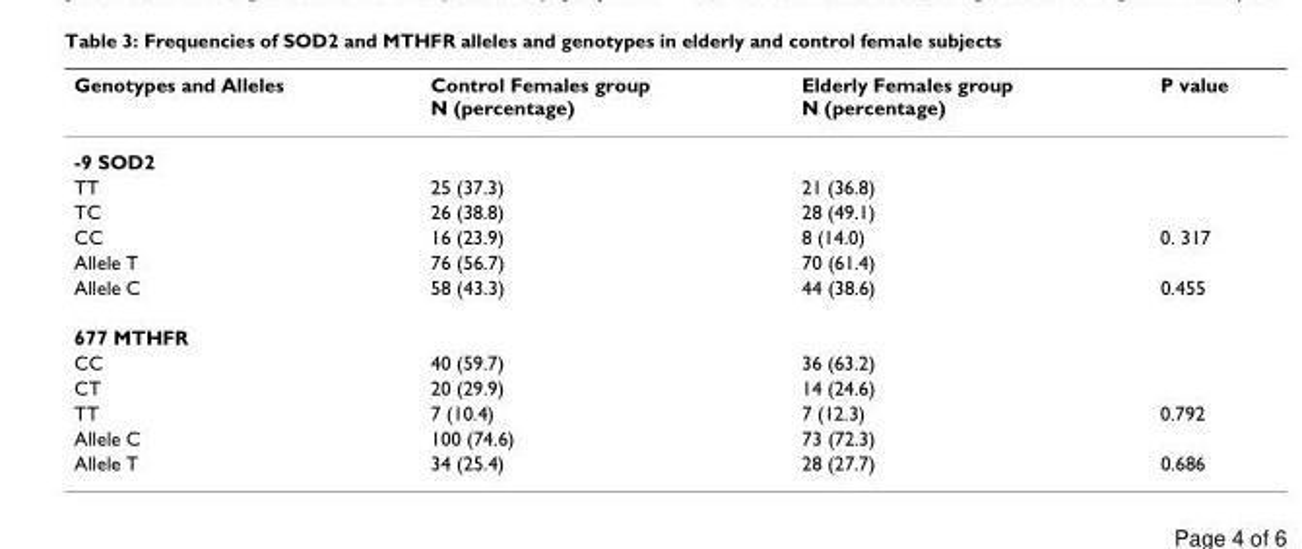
<table><thead><tr><td>Genotypes and Alleles</td><td>Control Females group N (percentage)</td><td>Elderly Females group N (percentage)</td><td>P value</td></tr></thead><tbody><tr><td colspan="4">-9 SOD2</td></tr><tr><td>TT</td><td>25 (37.3)</td><td>21 (36.8)</td><td></td></tr><tr><td>TC</td><td>26 (38.8)</td><td>28 (49.1)</td><td></td></tr><tr><td>CC</td><td>16 (23.9)</td><td>8 (14.0)</td><td>0. 317</td></tr><tr><td>Allele T</td><td>76 (56.7)</td><td>70 (61.4)</td><td></td></tr><tr><td>Allele C</td><td>58 (43.3)</td><td>44 (38.6)</td><td>0.455</td></tr><tr><td colspan="4">677 MTHFR</td></tr><tr><td>CC</td><td>40 (59.7)</td><td>36 (63.2)</td><td></td></tr><tr><td>CT</td><td>20 (29.9)</td><td>14 (24.6)</td><td></td></tr><tr><td>TT</td><td>7 (10.4)</td><td>7 (12.3)</td><td>0.792</td></tr><tr><td>Allele C</td><td>100 (74.6)</td><td>73 (72.3)</td><td></td></tr><tr><td>Allele T</td><td>34 (25.4)</td><td>28 (27.7)</td><td>0.686</td></tr></tbody></table>